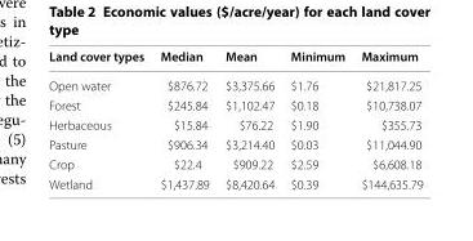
<table><thead><tr><td>Land cover types</td><td>Median</td><td>Mean</td><td>Minimum</td><td>Maximum</td></tr></thead><tbody><tr><td>Open water</td><td>$876.72</td><td>$3,375.66</td><td>$1.76</td><td>$21,817.25</td></tr><tr><td>Forest</td><td>$245.84</td><td>$1,102.47</td><td>$0.18</td><td>$10,738.07</td></tr><tr><td>Herbaceous</td><td>$15.84</td><td>$76.22</td><td>$1.90</td><td>$355.73</td></tr><tr><td>Pasture</td><td>$906.34</td><td>$3,214.40</td><td>$0.03</td><td>$11,044.90</td></tr><tr><td>Crop</td><td>$22.4</td><td>$909.22</td><td>$2.59</td><td>$6,608.18</td></tr><tr><td>Wetland</td><td>$1,437.89</td><td>$8,420.64</td><td>$0.39</td><td>$144,635.79</td></tr></tbody></table>